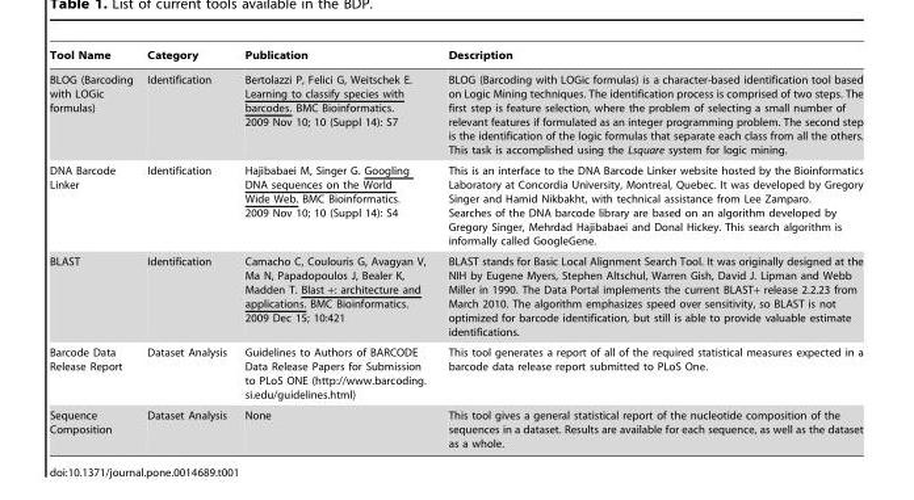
<table><thead><tr><td>Tool Name</td><td>Category</td><td>Publication</td><td>Description</td></tr></thead><tbody><tr><td>BLOG (Barcoding with LOGic formulas)</td><td>Identification</td><td>Bertolazzi P, Felici G, Weitschek E. Learning to classify species with barcodes. BMC Bioinformatics. 2009 Nov 10; 10 (Suppl 14): S7</td><td>BLOG (Barcoding with LOGic formulas) is a character-based identification tool based on Logic Mining techniques. The identification process is comprised of two steps. The first step is feature selection, where the problem of selecting a small number of relevant features if formulated as an integer programming problem. The second step is the identification of the logic formulas that separate each class from all the others. This task is accomplished using the Lsquare system for logic mining.</td></tr><tr><td>DNA Barcode Linker</td><td>Identification</td><td>Hajibabaei M, Singer G. Googling DNA sequences on the World Wide Web. BMC Bioinformatics. 2009 Nov 10; 10 (Suppl 14): S4</td><td>This is an interface to the DNA Barcode Linker website hosted by the Bioinformatics Laboratory at Concordia University, Montreal, Quebec. It was developed by Gregory Singer and Hamid Nikbakht, with technical assistance from Lee Zamparo. Searches of the DNA barcode library are based on an algorithm developed by Gregory Singer, Mehrdad Hajibabaei and Donal Hickey. This search algorithm is informally called GoogleGene.</td></tr><tr><td>BLAST</td><td>Identification</td><td>Camacho C, Coulouris G, Avagyan V, Ma N, Papadopoulos J, Bealer K, Madden T. Blast +: architecture and applications. BMC Bioinformatics. 2009 Dec 15; 10:421</td><td>BLAST stands for Basic Local Alignment Search Tool. It was originally designed at the NIH by Eugene Myers, Stephen Altschul, Warren Gish, David J. Lipman and Webb Miller in 1990. The Data Portal implements the current BLAST+ release 2.2.23 from March 2010. The algorithm emphasizes speed over sensitivity, so BLAST is not optimized for barcode identification, but still is able to provide valuable estimate identifications.</td></tr><tr><td>Barcode Data Release Report</td><td>Dataset Analysis</td><td>Guidelines to Authors of BARCODE Data Release Papers for Submission to PLoS ONE (http://www.barcoding. si.edu/guidelines.html)</td><td>This tool generates a report of all of the required statistical measures expected in a barcode data release report submitted to PLoS One.</td></tr><tr><td>Sequence Composition</td><td>Dataset Analysis</td><td>None</td><td>This tool gives a general statistical report of the nucleotide composition of the sequences in a dataset. Results are available for each sequence, as well as the dataset as a whole.</td></tr></tbody></table>